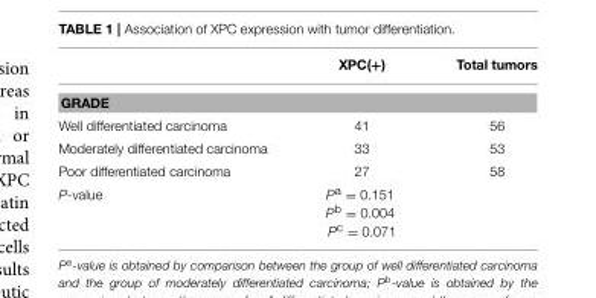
<table><thead><tr><td></td><td>XPC(+)</td><td>Total tumors</td></tr></thead><tbody><tr><td colspan="3">GRADE</td></tr><tr><td>Well differentiated carcinoma</td><td>41</td><td>56</td></tr><tr><td>Moderately differentiated carcinoma</td><td>33</td><td>53</td></tr><tr><td>Poor differentiated carcinoma</td><td>27</td><td>58</td></tr><tr><td>P-value</td><td>P<sup>a</sup> = 0.151 P<sup>b</sup> = 0.004 P<sup>c</sup> = 0.071</td><td></td></tr></tbody></table>